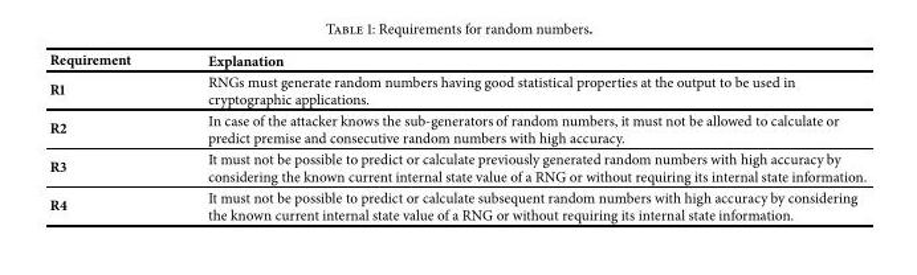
<table><thead><tr><td>Requirement</td><td>Explanation</td></tr></thead><tbody><tr><td>R1</td><td>RNGs must generate random numbers having good statistical properties at the output to be used in cryptographic applications.</td></tr><tr><td>R2</td><td>In case of the attacker knows the sub-generators of random numbers, it must not be allowed to calculate or predict premise and consecutive random numbers with high accuracy.</td></tr><tr><td>R3</td><td>It must not be possible to predict or calculate previously generated random numbers with high accuracy by considering the known current internal state value of a RNG or without requiring its internal state information.</td></tr><tr><td>R4</td><td>It must not be possible to predict or calculate subsequent random numbers with high accuracy by considering the known current internal state value of a RNG or without requiring its internal state information.</td></tr></tbody></table>